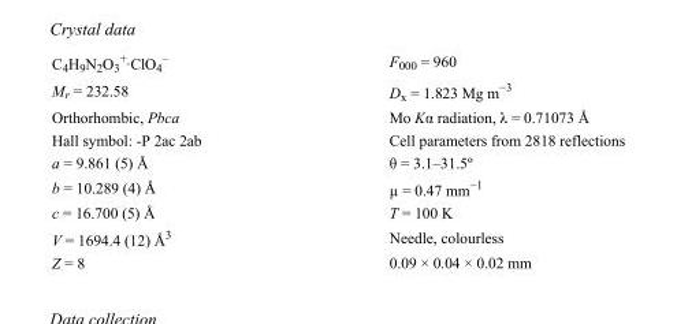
<table><tbody><tr><td>C<sub>4</sub>H<sub>9</sub>N<sub>2</sub>O<sub>3</sub> <sup>+</sup>·ClO<sub>4</sub> <sup>–</sup></td><td>F000 = 960</td></tr><tr><td>M<sub>r</sub> = 232.58</td><td>D<sub>x</sub> = 1.823 Mg m<sup>−3</sup></td></tr><tr><td>Orthorhombic, Pbca</td><td>Mo Kα radiation, λ = 0.71073 Å</td></tr><tr><td>Hall symbol: -P 2ac 2ab</td><td>Cell parameters from 2818 reflections</td></tr><tr><td>a = 9.861 (5) Å</td><td>θ = 3.1–31.5º</td></tr><tr><td>b = 10.289 (4) Å</td><td>µ = 0.47 mm<sup>−1</sup></td></tr><tr><td>c = 16.700 (5) Å</td><td>T = 100 K</td></tr><tr><td>V = 1694.4 (12) Å<sup>3</sup></td><td>Needle, colourless</td></tr><tr><td>Z = 8</td><td>0.09 × 0.04 × 0.02 mm</td></tr></tbody></table>